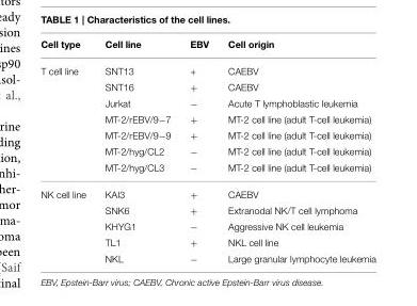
<table><thead><tr><td>Cell type</td><td>Cell line</td><td>EBV</td><td>Cell origin</td></tr></thead><tbody><tr><td rowspan="7">T cell line</td><td>SNT13</td><td>+</td><td>CAEBV</td></tr><tr><td>SNT16</td><td>+</td><td>CAEBV</td></tr><tr><td>Jurkat</td><td>−</td><td>Acute T lymphoblastic leukemia</td></tr><tr><td>MT-2/rEBV/9−7</td><td>+</td><td>MT-2 cell line (adult T-cell leukemia)</td></tr><tr><td>MT-2/rEBV/9−9</td><td>+</td><td>MT-2 cell line (adult T-cell leukemia)</td></tr><tr><td>MT-2/hyg/CL2</td><td>−</td><td>MT-2 cell line (adult T-cell leukemia)</td></tr><tr><td>MT-2/hyg/CL3</td><td>−</td><td>MT-2 cell line (adult T-cell leukemia)</td></tr><tr><td rowspan="5">NK cell line</td><td>KAI3</td><td>+</td><td>CAEBV</td></tr><tr><td>SNK6</td><td>+</td><td>Extranodal NK/T cell lymphoma</td></tr><tr><td>KHYG1</td><td>−</td><td>Aggressive NK cell leukemia</td></tr><tr><td>TL1</td><td>+</td><td>NKL cell line</td></tr><tr><td>NKL</td><td>−</td><td>Large granular lymphocyte leukemia</td></tr></tbody></table>